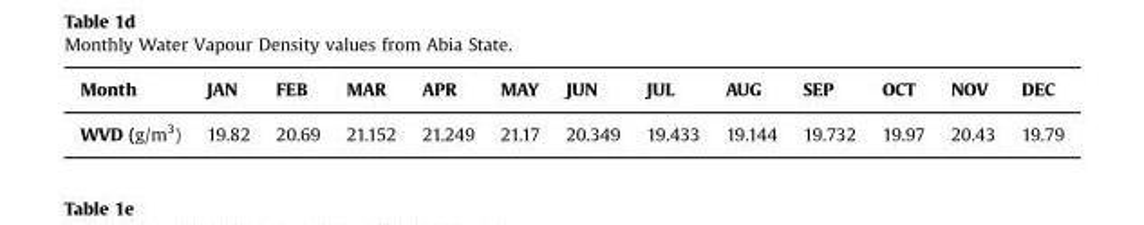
<table><thead><tr><td>Month</td><td>JAN</td><td>FEB</td><td>MAR</td><td>APR</td><td>MAY</td><td>JUN</td><td>JUL</td><td>AUG</td><td>SEP</td><td>OCT</td><td>NOV</td><td>DEC</td></tr></thead><tbody><tr><td>WVD (g/m<sup>3</sup>)</td><td>19.82</td><td>20.69</td><td>21.152</td><td>21.249</td><td>21.17</td><td>20.349</td><td>19.433</td><td>19.144</td><td>19.732</td><td>19.97</td><td>20.43</td><td>19.79</td></tr></tbody></table>